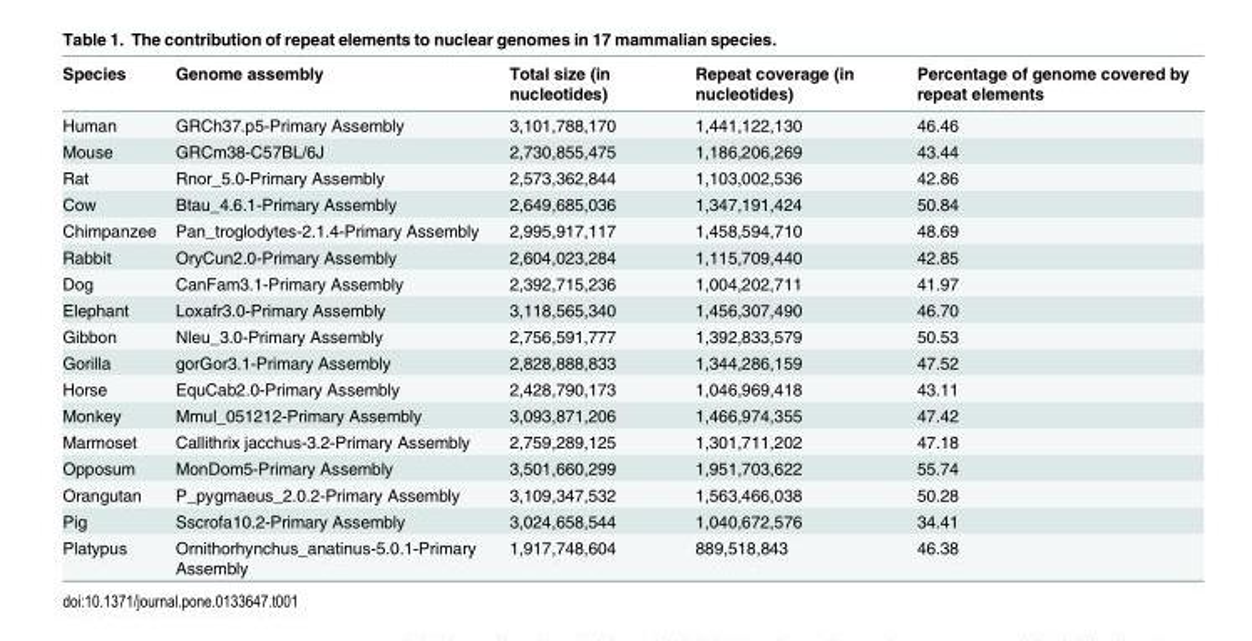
<table><thead><tr><td>Species</td><td>Genome assembly</td><td>Total size (in nucleotides)</td><td>Repeat coverage (in nucleotides)</td><td>Percentage of genome covered by repeat elements</td></tr></thead><tbody><tr><td>Human</td><td>GRCh37.p5-Primary Assembly</td><td>3,101,788,170</td><td>1,441,122,130</td><td>46.46</td></tr><tr><td>Mouse</td><td>GRCm38-C57BL/6J</td><td>2,730,855,475</td><td>1,186,206,269</td><td>43.44</td></tr><tr><td>Rat</td><td>Rnor_5.0-Primary Assembly</td><td>2,573,362,844</td><td>1,103,002,536</td><td>42.86</td></tr><tr><td>Cow</td><td>Btau_4.6.1-Primary Assembly</td><td>2,649,685,036</td><td>1,347,191,424</td><td>50.84</td></tr><tr><td>Chimpanzee</td><td>Pan_troglodytes-2.1.4-Primary Assembly</td><td>2,995,917,117</td><td>1,458,594,710</td><td>48.69</td></tr><tr><td>Rabbit</td><td>OryCun2.0-Primary Assembly</td><td>2,604,023,284</td><td>1,115,709,440</td><td>42.85</td></tr><tr><td>Dog</td><td>CanFam3.1-Primary Assembly</td><td>2,392,715,236</td><td>1,004,202,711</td><td>41.97</td></tr><tr><td>Elephant</td><td>Loxafr3.0-Primary Assembly</td><td>3,118,565,340</td><td>1,456,307,490</td><td>46.70</td></tr><tr><td>Gibbon</td><td>Nleu_3.0-Primary Assembly</td><td>2,756,591,777</td><td>1,392,833,579</td><td>50.53</td></tr><tr><td>Gorilla</td><td>gorGor3.1-Primary Assembly</td><td>2,828,888,833</td><td>1,344,286,159</td><td>47.52</td></tr><tr><td>Horse</td><td>EquCab2.0-Primary Assembly</td><td>2,428,790,173</td><td>1,046,969,418</td><td>43.11</td></tr><tr><td>Monkey</td><td>Mmul_051212-Primary Assembly</td><td>3,093,871,206</td><td>1,466,974,355</td><td>47.42</td></tr><tr><td>Marmoset</td><td>Callithrix jacchus-3.2-Primary Assembly</td><td>2,759,289,125</td><td>1,301,711,202</td><td>47.18</td></tr><tr><td>Opposum</td><td>MonDom5-Primary Assembly</td><td>3,501,660,299</td><td>1,951,703,622</td><td>55.74</td></tr><tr><td>Orangutan</td><td>P_pygmaeus_2.0.2-Primary Assembly</td><td>3,109,347,532</td><td>1,563,466,038</td><td>50.28</td></tr><tr><td>Pig</td><td>Sscrofa10.2-Primary Assembly</td><td>3,024,658,544</td><td>1,040,672,576</td><td>34.41</td></tr><tr><td>Platypus</td><td>Ornithorhynchus_anatinus-5.0.1-Primary Assembly</td><td>1,917,748,604</td><td>889,518,843</td><td>46.38</td></tr></tbody></table>